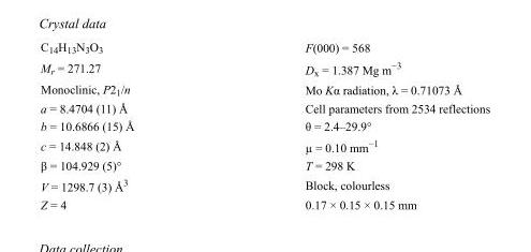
<table><tbody><tr><td>C<sub>14</sub>H<sub>13</sub>N<sub>3</sub>O<sub>3</sub></td><td>F(000) = 568</td></tr><tr><td>M<sub>r</sub> = 271.27</td><td>D<sub>x</sub> = 1.387 Mg m<sup>−3</sup></td></tr><tr><td>Monoclinic, P2<sub>1</sub>/n</td><td>Mo Kα radiation, λ = 0.71073 Å</td></tr><tr><td>a = 8.4704 (11) Å</td><td>Cell parameters from 2534 reflections</td></tr><tr><td>b = 10.6866 (15) Å</td><td>θ = 2.4–29.9°</td></tr><tr><td>c = 14.848 (2) Å</td><td>µ = 0.10 mm<sup>−1</sup></td></tr><tr><td>β = 104.929 (5)°</td><td>T = 298 K</td></tr><tr><td>V = 1298.7 (3) Å<sup>3</sup></td><td>Block, colourless</td></tr><tr><td>Z = 4</td><td>0.17 × 0.15 × 0.15 mm</td></tr></tbody></table>